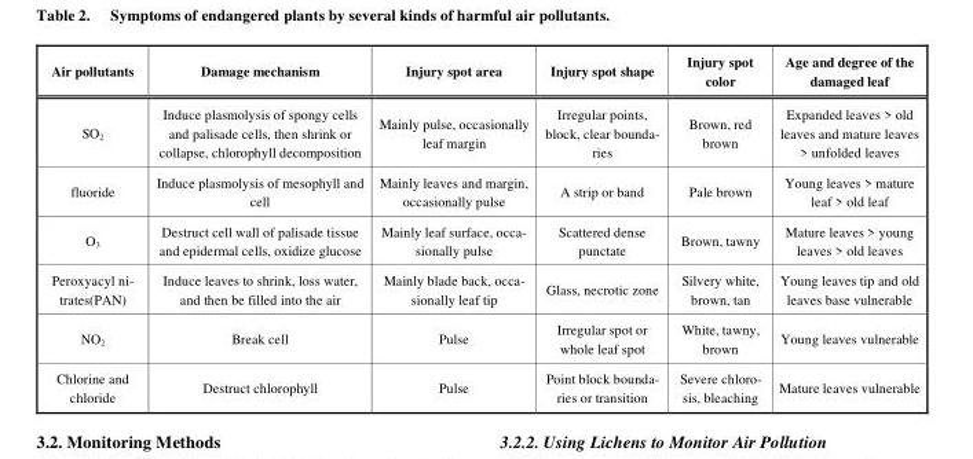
<table><thead><tr><td>Air pollutants</td><td>Damage mechanism</td><td>Injury spot area</td><td>Injury spot shape</td><td>Injury spot color</td><td>Age and degree of the damaged leaf</td></tr></thead><tbody><tr><td>SO2</td><td>Induce plasmolysis of spongy cells and palisade cells, then shrink or collapse, chlorophyll decomposition</td><td>Mainly pulse, occasionally leaf margin</td><td>Irregular points, block, clear bounda- ries</td><td>Brown, red brown</td><td>Expanded leaves &gt; old leaves and mature leaves &gt; unfolded leaves</td></tr><tr><td>fluoride</td><td>Induce plasmolysis of mesophyll and cell</td><td>Mainly leaves and margin, occasionally pulse</td><td>A strip or band</td><td>Pale brown</td><td>Young leaves &gt; mature leaf &gt; old leaf</td></tr><tr><td>O3</td><td>Destruct cell wall of palisade tissue and epidermal cells, oxidize glucose</td><td>Mainly leaf surface, occa- sionally pulse</td><td>Scattered dense punctate</td><td>Brown, tawny</td><td>Mature leaves &gt; young leaves &gt; old leaves</td></tr><tr><td>Peroxyacyl ni- trates(PAN)</td><td>Induce leaves to shrink, loss water, and then be filled into the air</td><td>Mainly blade back, occa- sionally leaf tip</td><td>Glass, necrotic zone</td><td>Silvery white, brown, tan</td><td>Young leaves tip and old leaves base vulnerable</td></tr><tr><td>NO2</td><td>Break cell</td><td>Pulse</td><td>Irregular spot or whole leaf spot</td><td>White, tawny, brown</td><td>Young leaves vulnerable</td></tr><tr><td>Chlorine and chloride</td><td>Destruct chlorophyll</td><td>Pulse</td><td>Point block bounda- ries or transition</td><td>Severe chloro- sis, bleaching</td><td>Mature leaves vulnerable</td></tr></tbody></table>